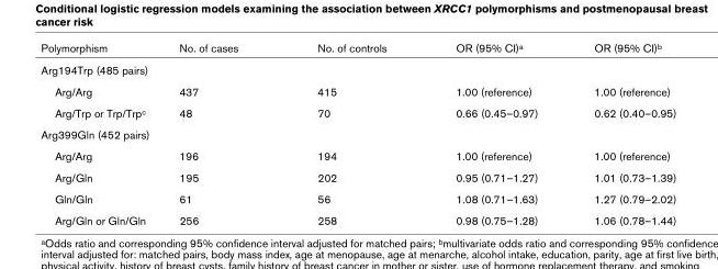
<table><thead><tr><td>Polymorphism</td><td>No. of cases</td><td>No. of controls</td><td>OR (95% CI)a</td><td>OR (95% CI)b</td></tr></thead><tbody><tr><td colspan="5">Arg194Trp (485 pairs)</td></tr><tr><td>Arg/Arg</td><td>437</td><td>415</td><td>1.00 (reference)</td><td>1.00 (reference)</td></tr><tr><td>Arg/Trp or Trp/Trpc</td><td>48</td><td>70</td><td>0.66 (0.45–0.97)</td><td>0.62 (0.40–0.95)</td></tr><tr><td colspan="5">Arg399Gln (452 pairs)</td></tr><tr><td>Arg/Arg</td><td>196</td><td>194</td><td>1.00 (reference)</td><td>1.00 (reference)</td></tr><tr><td>Arg/Gln</td><td>195</td><td>202</td><td>0.95 (0.71–1.27)</td><td>1.01 (0.73–1.39)</td></tr><tr><td>Gln/Gln</td><td>61</td><td>56</td><td>1.08 (0.71–1.63)</td><td>1.27 (0.79–2.02)</td></tr><tr><td>Arg/Gln or Gln/Gln</td><td>256</td><td>258</td><td>0.98 (0.75–1.28)</td><td>1.06 (0.78–1.44)</td></tr></tbody></table>